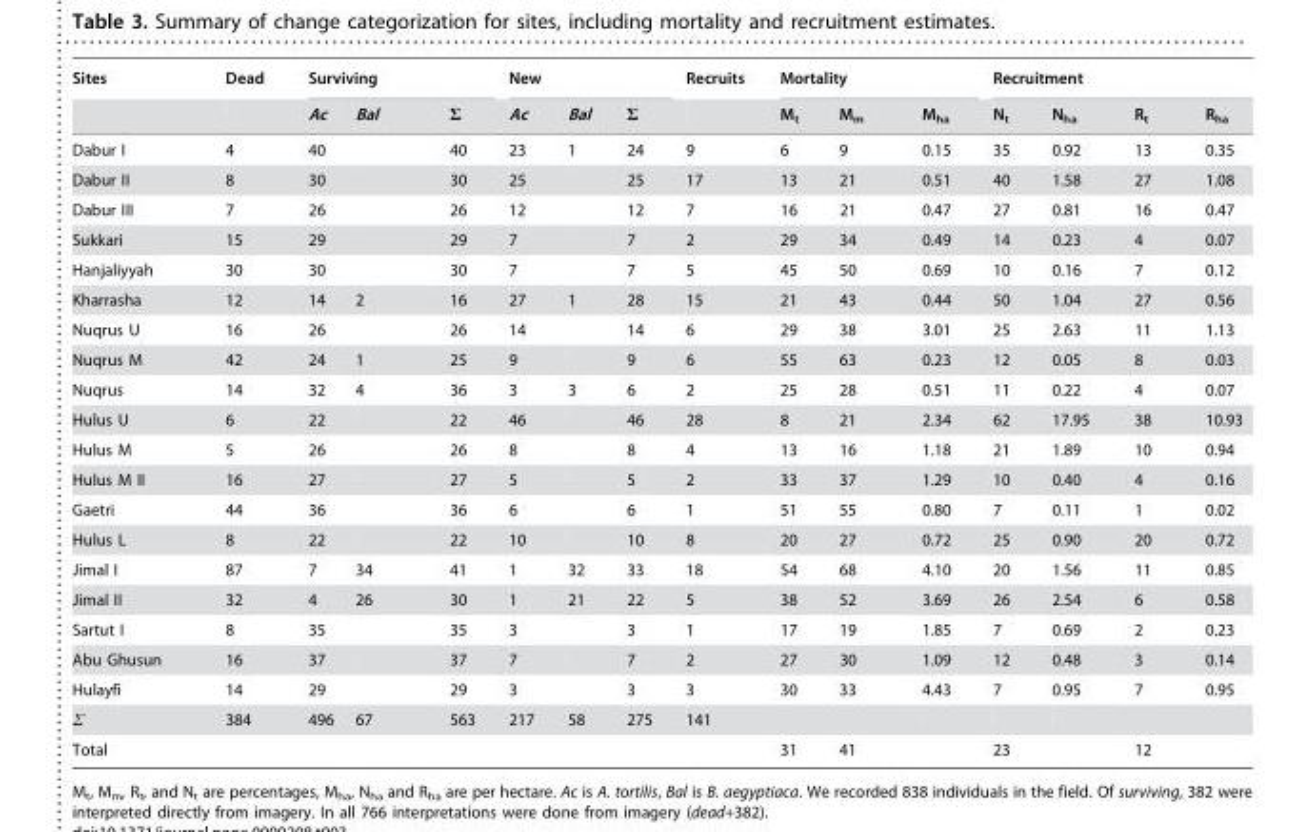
<table><thead><tr><td rowspan="2">Sites</td><td rowspan="2">Dead</td><td colspan="3">Surviving</td><td colspan="3">New</td><td rowspan="2">Recruits</td><td colspan="3">Mortality</td><td colspan="4">Recruitment</td></tr><tr><td>Ac</td><td>Bal</td><td>Σ</td><td>Ac</td><td>Bal</td><td>Σ</td><td>M<sub>t</sub></td><td>M<sub>m</sub></td><td>M<sub>ha</sub></td><td>N<sub>t</sub></td><td>N<sub>ha</sub></td><td>R<sub>t</sub></td><td>R<sub>ha</sub></td></tr></thead><tbody><tr><td>Dabur I</td><td>4</td><td>40</td><td></td><td>40</td><td>23</td><td>1</td><td>24</td><td>9</td><td>6</td><td>9</td><td>0.15</td><td>35</td><td>0.92</td><td>13</td><td>0.35</td></tr><tr><td>Dabur II</td><td>8</td><td>30</td><td></td><td>30</td><td>25</td><td></td><td>25</td><td>17</td><td>13</td><td>21</td><td>0.51</td><td>40</td><td>1.58</td><td>27</td><td>1.08</td></tr><tr><td>Dabur III</td><td>7</td><td>26</td><td></td><td>26</td><td>12</td><td></td><td>12</td><td>7</td><td>16</td><td>21</td><td>0.47</td><td>27</td><td>0.81</td><td>16</td><td>0.47</td></tr><tr><td>Sukkari</td><td>15</td><td>29</td><td></td><td>29</td><td>7</td><td></td><td>7</td><td>2</td><td>29</td><td>34</td><td>0.49</td><td>14</td><td>0.23</td><td>4</td><td>0.07</td></tr><tr><td>Hanjaliyyah</td><td>30</td><td>30</td><td></td><td>30</td><td>7</td><td></td><td>7</td><td>5</td><td>45</td><td>50</td><td>0.69</td><td>10</td><td>0.16</td><td>7</td><td>0.12</td></tr><tr><td>Kharrasha</td><td>12</td><td>14</td><td>2</td><td>16</td><td>27</td><td>1</td><td>28</td><td>15</td><td>21</td><td>43</td><td>0.44</td><td>50</td><td>1.04</td><td>27</td><td>0.56</td></tr><tr><td>Nuqrus U</td><td>16</td><td>26</td><td></td><td>26</td><td>14</td><td></td><td>14</td><td>6</td><td>29</td><td>38</td><td>3.01</td><td>25</td><td>2.63</td><td>11</td><td>1.13</td></tr><tr><td>Nuqrus M</td><td>42</td><td>24</td><td>1</td><td>25</td><td>9</td><td></td><td>9</td><td>6</td><td>55</td><td>63</td><td>0.23</td><td>12</td><td>0.05</td><td>8</td><td>0.03</td></tr><tr><td>Nuqrus</td><td>14</td><td>32</td><td>4</td><td>36</td><td>3</td><td>3</td><td>6</td><td>2</td><td>25</td><td>28</td><td>0.51</td><td>11</td><td>0.22</td><td>4</td><td>0.07</td></tr><tr><td>Hulus U</td><td>6</td><td>22</td><td></td><td>22</td><td>46</td><td></td><td>46</td><td>28</td><td>8</td><td>21</td><td>2.34</td><td>62</td><td>17.95</td><td>38</td><td>10.93</td></tr><tr><td>Hulus M</td><td>5</td><td>26</td><td></td><td>26</td><td>8</td><td></td><td>8</td><td>4</td><td>13</td><td>16</td><td>1.18</td><td>21</td><td>1.89</td><td>10</td><td>0.94</td></tr><tr><td>Hulus M II</td><td>16</td><td>27</td><td></td><td>27</td><td>5</td><td></td><td>5</td><td>2</td><td>33</td><td>37</td><td>1.29</td><td>10</td><td>0.40</td><td>4</td><td>0.16</td></tr><tr><td>Gaetri</td><td>44</td><td>36</td><td></td><td>36</td><td>6</td><td></td><td>6</td><td>1</td><td>51</td><td>55</td><td>0.80</td><td>7</td><td>0.11</td><td>1</td><td>0.02</td></tr><tr><td>Hulus L</td><td>8</td><td>22</td><td></td><td>22</td><td>10</td><td></td><td>10</td><td>8</td><td>20</td><td>27</td><td>0.72</td><td>25</td><td>0.90</td><td>20</td><td>0.72</td></tr><tr><td>Jimal I</td><td>87</td><td>7</td><td>34</td><td>41</td><td>1</td><td>32</td><td>33</td><td>18</td><td>54</td><td>68</td><td>4.10</td><td>20</td><td>1.56</td><td>11</td><td>0.85</td></tr><tr><td>Jimal II</td><td>32</td><td>4</td><td>26</td><td>30</td><td>1</td><td>21</td><td>22</td><td>5</td><td>38</td><td>52</td><td>3.69</td><td>26</td><td>2.54</td><td>6</td><td>0.58</td></tr><tr><td>Sartut I</td><td>8</td><td>35</td><td></td><td>35</td><td>3</td><td></td><td>3</td><td>1</td><td>17</td><td>19</td><td>1.85</td><td>7</td><td>0.69</td><td>2</td><td>0.23</td></tr><tr><td>Abu Ghusun</td><td>16</td><td>37</td><td></td><td>37</td><td>7</td><td></td><td>7</td><td>2</td><td>27</td><td>30</td><td>1.09</td><td>12</td><td>0.48</td><td>3</td><td>0.14</td></tr><tr><td>Hulayfi</td><td>14</td><td>29</td><td></td><td>29</td><td>3</td><td></td><td>3</td><td>3</td><td>30</td><td>33</td><td>4.43</td><td>7</td><td>0.95</td><td>7</td><td>0.95</td></tr><tr><td>Σ</td><td>384</td><td>496</td><td>67</td><td>563</td><td>217</td><td>58</td><td>275</td><td>141</td><td></td><td></td><td></td><td></td><td></td><td></td><td></td></tr><tr><td>Total</td><td></td><td></td><td></td><td></td><td></td><td></td><td></td><td></td><td>31</td><td>41</td><td></td><td>23</td><td></td><td>12</td><td></td></tr></tbody></table>